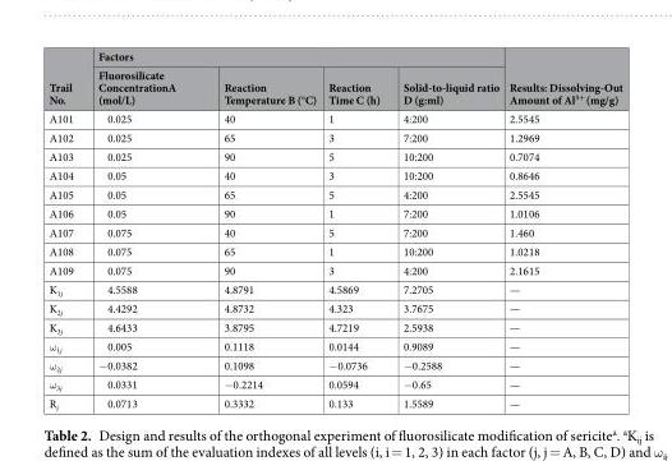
<table><thead><tr><td rowspan="2">Trail No.</td><td colspan="4">Factors</td><td rowspan="2">Results: Dissolving-Out Amount of Al<sup>3+</sup> (mg/g)</td></tr><tr><td>Fluorosilicate ConcentrationA (mol/L)</td><td>Reaction Temperature B (°C)</td><td>Reaction Time C (h)</td><td>Solid-to-liquid ratio D (g:ml)</td></tr></thead><tbody><tr><td>A101</td><td>0.025</td><td>40</td><td>1</td><td>4:200</td><td>2.5545</td></tr><tr><td>A102</td><td>0.025</td><td>65</td><td>3</td><td>7:200</td><td>1.2969</td></tr><tr><td>A103</td><td>0.025</td><td>90</td><td>5</td><td>10:200</td><td>0.7074</td></tr><tr><td>A104</td><td>0.05</td><td>40</td><td>3</td><td>10:200</td><td>0.8646</td></tr><tr><td>A105</td><td>0.05</td><td>65</td><td>5</td><td>4:200</td><td>2.5545</td></tr><tr><td>A106</td><td>0.05</td><td>90</td><td>1</td><td>7:200</td><td>1.0106</td></tr><tr><td>A107</td><td>0.075</td><td>40</td><td>5</td><td>7:200</td><td>1.460</td></tr><tr><td>A108</td><td>0.075</td><td>65</td><td>1</td><td>10:200</td><td>1.0218</td></tr><tr><td>A109</td><td>0.075</td><td>90</td><td>3</td><td>4:200</td><td>2.1615</td></tr><tr><td>K<sub>1j</sub></td><td>4.5588</td><td>4.8791</td><td>4.5869</td><td>7.2705</td><td>—</td></tr><tr><td>K<sub>2j</sub></td><td>4.4292</td><td>4.8732</td><td>4.323</td><td>3.7675</td><td>—</td></tr><tr><td>K<sub>3j</sub></td><td>4.6433</td><td>3.8795</td><td>4.7219</td><td>2.5938</td><td>—</td></tr><tr><td>ω<sub>1j</sub></td><td>0.005</td><td>0.1118</td><td>0.0144</td><td>0.9089</td><td>—</td></tr><tr><td>ω<sub>2j</sub></td><td>−0.0382</td><td>0.1098</td><td>−0.0736</td><td>−0.2588</td><td>—</td></tr><tr><td>ω<sub>3j</sub></td><td>0.0331</td><td>−0.2214</td><td>0.0594</td><td>−0.65</td><td>—</td></tr><tr><td>R<sub>j</sub></td><td>0.0713</td><td>0.3332</td><td>0.133</td><td>1.5589</td><td>—</td></tr></tbody></table>